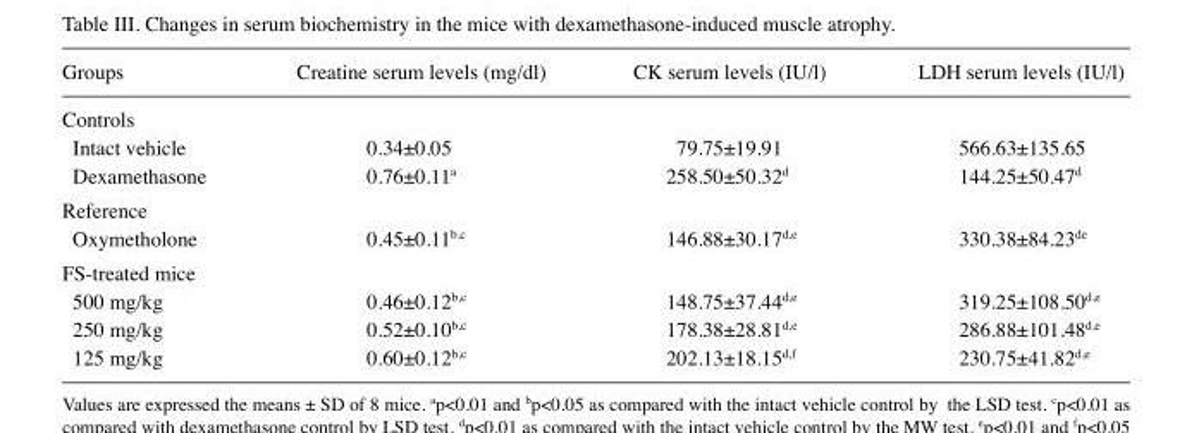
<table><thead><tr><td>Groups</td><td>Creatine serum levels (mg/dl)</td><td>CK serum levels (IU/l)</td><td>LDH serum levels (IU/l)</td></tr></thead><tbody><tr><td colspan="4">Controls</td></tr><tr><td>Intact vehicle</td><td>0.34±0.05</td><td>79.75±19.91</td><td>566.63±135.65</td></tr><tr><td>Dexamethasone</td><td>0.76±0.11<sup>a</sup></td><td>258.50±50.32<sup>d</sup></td><td>144.25±50.47<sup>d</sup></td></tr><tr><td colspan="4">Reference</td></tr><tr><td>Oxymetholone</td><td>0.45±0.11<sup>b</sup>,<sup>c</sup></td><td>146.88±30.17<sup>d</sup>,<sup>e</sup></td><td>330.38±84.23de</td></tr><tr><td colspan="4">FS-treated mice</td></tr><tr><td>500 mg/kg</td><td>0.46±0.12<sup>b</sup>,<sup>c</sup></td><td>148.75±37.44<sup>d</sup>,<sup>e</sup></td><td>319.25±108.50<sup>d</sup>,<sup>e</sup></td></tr><tr><td>250 mg/kg</td><td>0.52±0.10<sup>b</sup>,<sup>c</sup></td><td>178.38±28.81<sup>d</sup>,<sup>e</sup></td><td>286.88±101.48<sup>d</sup>,<sup>e</sup></td></tr><tr><td>125 mg/kg</td><td>0.60±0.12<sup>b</sup>,<sup>c</sup></td><td>202.13±18.15<sup>d</sup>,<sup>f</sup></td><td>230.75±41.82<sup>d</sup>,<sup>e</sup></td></tr></tbody></table>